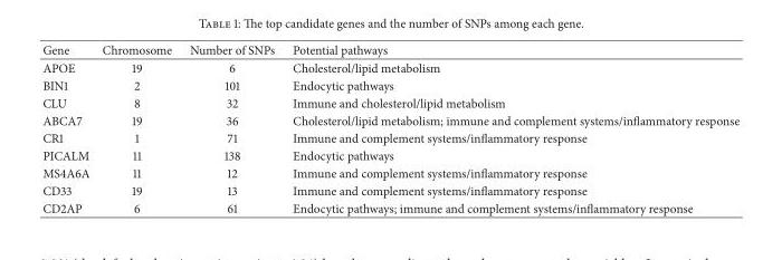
<table><thead><tr><td>Gene</td><td>Chromosome</td><td>Number of SNPs</td><td>Potential pathways</td></tr></thead><tbody><tr><td>APOE</td><td>19</td><td>6</td><td>Cholesterol/lipid metabolism</td></tr><tr><td>BIN1</td><td>2</td><td>101</td><td>Endocytic pathways</td></tr><tr><td>CLU</td><td>8</td><td>32</td><td>Immune and cholesterol/lipid metabolism</td></tr><tr><td>ABCA7</td><td>19</td><td>36</td><td>Cholesterol/lipid metabolism; immune and complement systems/inflammatory response</td></tr><tr><td>CR1</td><td>1</td><td>71</td><td>Immune and complement systems/inflammatory response</td></tr><tr><td>PICALM</td><td>11</td><td>138</td><td>Endocytic pathways</td></tr><tr><td>MS4A6A</td><td>11</td><td>12</td><td>Immune and complement systems/inflammatory response</td></tr><tr><td>CD33</td><td>19</td><td>13</td><td>Immune and complement systems/inflammatory response</td></tr><tr><td>CD2AP</td><td>6</td><td>61</td><td>Endocytic pathways; immune and complement systems/inflammatory response</td></tr></tbody></table>